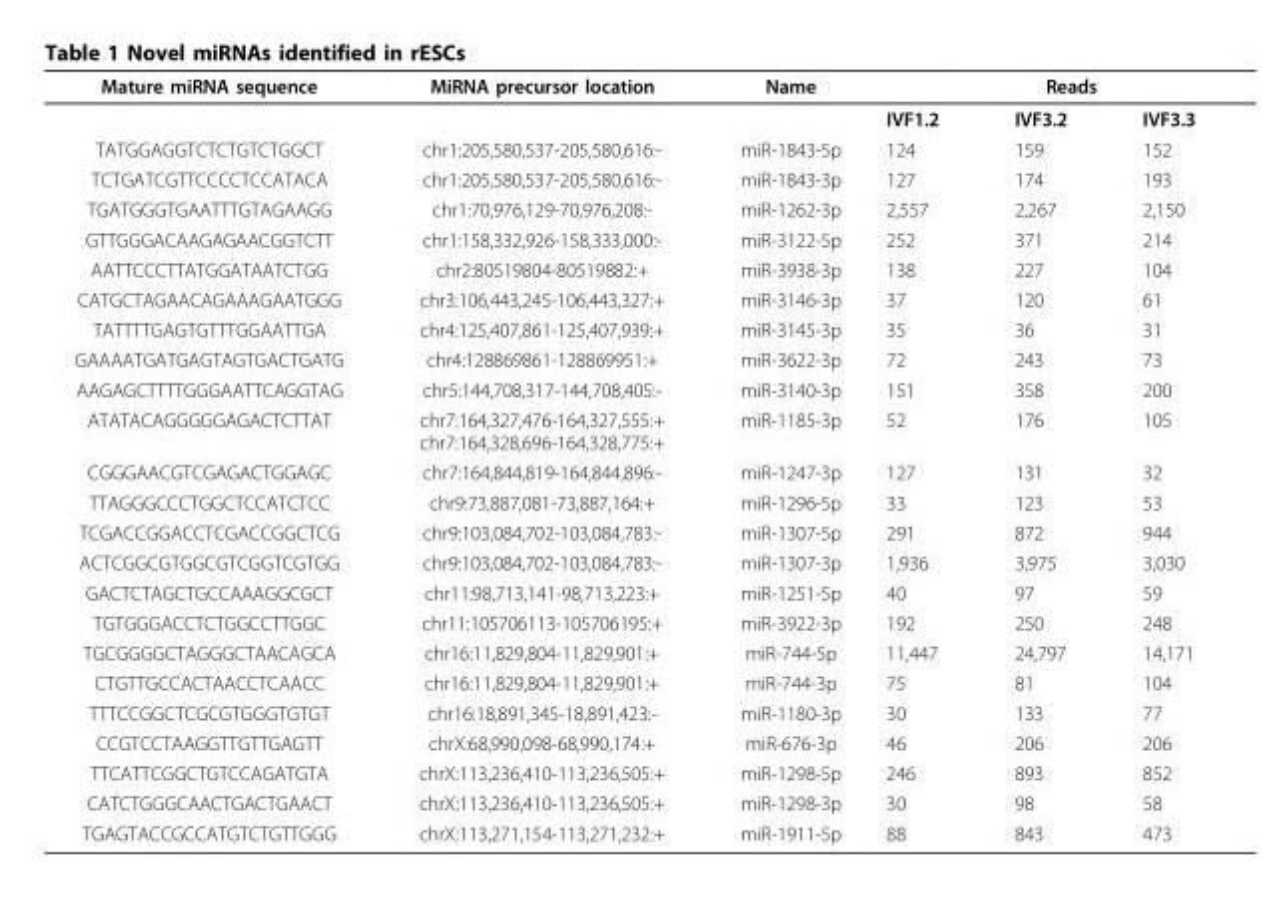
<table><thead><tr><td rowspan="2">Mature miRNA sequence</td><td rowspan="2">MiRNA precursor location</td><td rowspan="2">Name</td><td colspan="3">Reads</td></tr><tr><td>IVF1.2</td><td>IVF3.2</td><td>IVF3.3</td></tr></thead><tbody><tr><td>TATGGAGGTCTCTGTCTGGCT</td><td>chr1:205,580,537-205,580,616:-</td><td>miR-1843-5p</td><td>124</td><td>159</td><td>152</td></tr><tr><td>TCTGATCGTTCCCCTCCATACA</td><td>chr1:205,580,537-205,580,616:-</td><td>miR-1843-3p</td><td>127</td><td>174</td><td>193</td></tr><tr><td>TGATGGGTGAATTTGTAGAAGG</td><td>chr1:70,976,129-70,976,208:-</td><td>miR-1262-3p</td><td>2,557</td><td>2,267</td><td>2,150</td></tr><tr><td>GTTGGGACAAGAGAACGGTCTT</td><td>chr1:158,332,926-158,333,000:-</td><td>miR-3122-5p</td><td>252</td><td>371</td><td>214</td></tr><tr><td>AATTCCCTTATGGATAATCTGG</td><td>chr2:80519804-80519882:+</td><td>miR-3938-3p</td><td>138</td><td>227</td><td>104</td></tr><tr><td>CATGCTAGAACAGAAAGAATGGG</td><td>chr3:106,443,245-106,443,327:+</td><td>miR-3146-3p</td><td>37</td><td>120</td><td>61</td></tr><tr><td>TATTTTGAGTGTTTGGAATTGA</td><td>chr4:125,407,861-125,407,939:+</td><td>miR-3145-3p</td><td>35</td><td>36</td><td>31</td></tr><tr><td>GAAAATGATGAGTAGTGACTGATG</td><td>chr4:128869861-128869951:+</td><td>miR-3622-3p</td><td>72</td><td>243</td><td>73</td></tr><tr><td>AAGAGCTTTTGGGAATTCAGGTAG</td><td>chr5:144,708,317-144,708,405:-</td><td>miR-3140-3p</td><td>151</td><td>358</td><td>200</td></tr><tr><td>ATATACAGGGGGAGACTCTTAT</td><td>chr7:164,327,476-164,327,555:+ chr7:164,328,696-164,328,775:+</td><td>miR-1185-3p</td><td>52</td><td>176</td><td>105</td></tr><tr><td>CGGGAACGTCGAGACTGGAGC</td><td>chr7:164,844,819-164,844,896:-</td><td>miR-1247-3p</td><td>127</td><td>131</td><td>32</td></tr><tr><td>TTAGGGCCCTGGCTCCATCTCC</td><td>chr9:73,887,081-73,887,164:+</td><td>miR-1296-5p</td><td>33</td><td>123</td><td>53</td></tr><tr><td>TCGACCGGACCTCGACCGGCTCG</td><td>chr9:103,084,702-103,084,783:-</td><td>miR-1307-5p</td><td>291</td><td>872</td><td>944</td></tr><tr><td>ACTCGGCGTGGCGTCGGTCGTGG</td><td>chr9:103,084,702-103,084,783:-</td><td>miR-1307-3p</td><td>1,936</td><td>3,975</td><td>3,030</td></tr><tr><td>GACTCTAGCTGCCAAAGGCGCT</td><td>chr11:98,713,141-98,713,223:+</td><td>miR-1251-5p</td><td>40</td><td>97</td><td>59</td></tr><tr><td>TGTGGGACCTCTGGCCTTGGC</td><td>chr11:105706113-105706195:+</td><td>miR-3922-3p</td><td>192</td><td>250</td><td>248</td></tr><tr><td>TGCGGGGCTAGGGCTAACAGCA</td><td>chr16:11,829,804-11,829,901:+</td><td>miR-744-5p</td><td>11,447</td><td>24,797</td><td>14,171</td></tr><tr><td>CTGTTGCCACTAACCTCAACC</td><td>chr16:11,829,804-11,829,901:+</td><td>miR-744-3p</td><td>75</td><td>81</td><td>104</td></tr><tr><td>TTTCCGGCTCGCGTGGGTGTGT</td><td>chr16:18,891,345-18,891,423:-</td><td>miR-1180-3p</td><td>30</td><td>133</td><td>77</td></tr><tr><td>CCGTCCTAAGGTTGTTGAGTT</td><td>chrX:68,990,098-68,990,174:+</td><td>miR-676-3p</td><td>46</td><td>206</td><td>206</td></tr><tr><td>TTCATTCGGCTGTCCAGATGTA</td><td>chrX:113,236,410-113,236,505:+</td><td>miR-1298-5p</td><td>246</td><td>893</td><td>852</td></tr><tr><td>CATCTGGGCAACTGACTGAACT</td><td>chrX:113,236,410-113,236,505:+</td><td>miR-1298-3p</td><td>30</td><td>98</td><td>58</td></tr><tr><td>TGAGTACCGCCATGTCTGTTGGG</td><td>chrX:113,271,154-113,271,232:+</td><td>miR-1911-5p</td><td>88</td><td>843</td><td>473</td></tr></tbody></table>